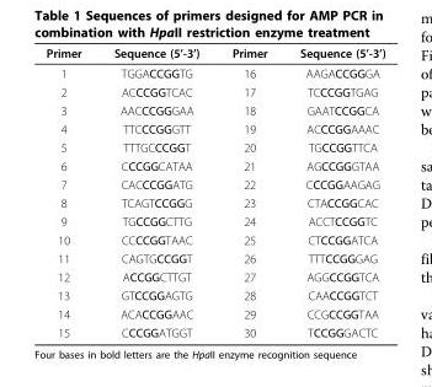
<table><thead><tr><td>Primer</td><td>Sequence (5’-3’)</td><td>Primer</td><td>Sequence (5’-3’)</td></tr></thead><tbody><tr><td>1</td><td>TGGACCGGTG</td><td>16</td><td>AAGACCGGGA</td></tr><tr><td>2</td><td>ACCCGGTCAC</td><td>17</td><td>TCCCGGTGAG</td></tr><tr><td>3</td><td>AACCCGGGAA</td><td>18</td><td>GAATCCGGCA</td></tr><tr><td>4</td><td>TTCCCGGGTT</td><td>19</td><td>ACCCGGAAAC</td></tr><tr><td>5</td><td>TTTGCCCGGT</td><td>20</td><td>TGCCGGTTCA</td></tr><tr><td>6</td><td>CCCGGCATAA</td><td>21</td><td>AGCCGGGTAA</td></tr><tr><td>7</td><td>CACCCGGATG</td><td>22</td><td>CCCGGAAGAG</td></tr><tr><td>8</td><td>TCAGTCCGGG</td><td>23</td><td>CTACCGGCAC</td></tr><tr><td>9</td><td>TGCCGGCTTG</td><td>24</td><td>ACCTCCGGTC</td></tr><tr><td>10</td><td>CCCCGGTAAC</td><td>25</td><td>CTCCGGATCA</td></tr><tr><td>11</td><td>CAGTGCCGGT</td><td>26</td><td>TTTCCGGGAG</td></tr><tr><td>12</td><td>ACCGGCTTGT</td><td>27</td><td>AGGCCGGTCA</td></tr><tr><td>13</td><td>GTCCGGAGTG</td><td>28</td><td>CAACCGGTCT</td></tr><tr><td>14</td><td>ACACCGGAAC</td><td>29</td><td>CCGCCGGTAA</td></tr><tr><td>15</td><td>CCCGGATGGT</td><td>30</td><td>TCCGGGACTC</td></tr></tbody></table>